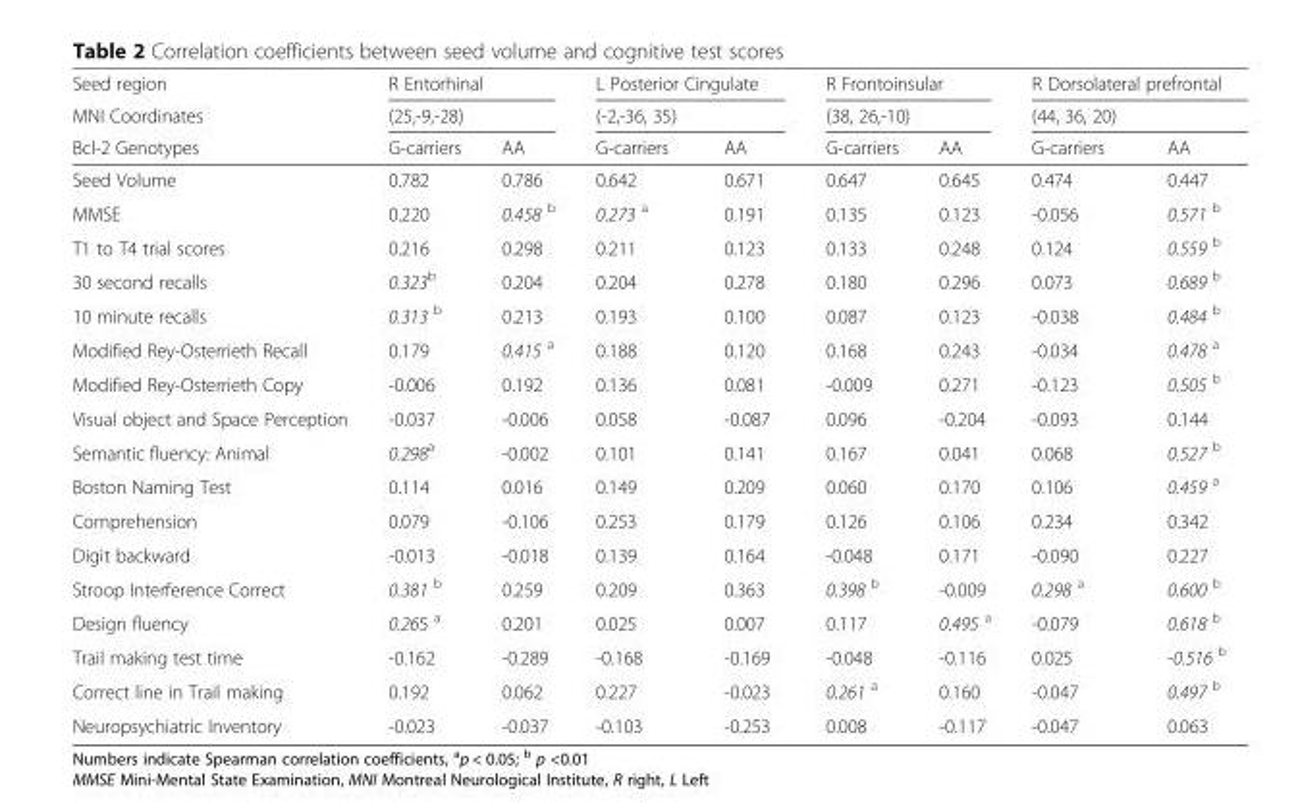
<table><thead><tr><td rowspan="3">Seed region MNI Coordinates Bcl-2 Genotypes</td><td rowspan="2" colspan="2">R Entorhinal (25,-9,-28)</td><td rowspan="2" colspan="2">L Posterior Cingulate (-2,-36, 35)</td><td rowspan="2" colspan="2">R Frontoinsular (38, 26,-10)</td><td rowspan="2" colspan="2">R Dorsolateral prefrontal (44, 36, 20)</td></tr><tr></tr><tr><td>G-carriers</td><td>AA</td><td>G-carriers</td><td>AA</td><td>G-carriers</td><td>AA</td><td>G-carriers</td><td>AA</td></tr></thead><tbody><tr><td>Seed Volume</td><td>0.782</td><td>0.786</td><td>0.642</td><td>0.671</td><td>0.647</td><td>0.645</td><td>0.474</td><td>0.447</td></tr><tr><td>MMSE</td><td>0.220</td><td>0.458 <sup>b</sup></td><td>0.273 <sup>a</sup></td><td>0.191</td><td>0.135</td><td>0.123</td><td>-0.056</td><td>0.571 <sup>b</sup></td></tr><tr><td>T1 to T4 trial scores</td><td>0.216</td><td>0.298</td><td>0.211</td><td>0.123</td><td>0.133</td><td>0.248</td><td>0.124</td><td>0.559 <sup>b</sup></td></tr><tr><td>30 second recalls</td><td>0.323<sup>b</sup></td><td>0.204</td><td>0.204</td><td>0.278</td><td>0.180</td><td>0.296</td><td>0.073</td><td>0.689 <sup>b</sup></td></tr><tr><td>10 minute recalls</td><td>0.313 <sup>b</sup></td><td>0.213</td><td>0.193</td><td>0.100</td><td>0.087</td><td>0.123</td><td>-0.038</td><td>0.484 <sup>b</sup></td></tr><tr><td>Modified Rey-Osterrieth Recall</td><td>0.179</td><td>0.415 <sup>a</sup></td><td>0.188</td><td>0.120</td><td>0.168</td><td>0.243</td><td>-0.034</td><td>0.478 <sup>a</sup></td></tr><tr><td>Modified Rey-Osterrieth Copy</td><td>-0.006</td><td>0.192</td><td>0.136</td><td>0.081</td><td>-0.009</td><td>0.271</td><td>-0.123</td><td>0.505 <sup>b</sup></td></tr><tr><td>Visual object and Space Perception</td><td>-0.037</td><td>-0.006</td><td>0.058</td><td>-0.087</td><td>0.096</td><td>-0.204</td><td>-0.093</td><td>0.144</td></tr><tr><td>Semantic fluency: Animal</td><td>0.298<sup>a</sup></td><td>-0.002</td><td>0.101</td><td>0.141</td><td>0.167</td><td>0.041</td><td>0.068</td><td>0.527 <sup>b</sup></td></tr><tr><td>Boston Naming Test</td><td>0.114</td><td>0.016</td><td>0.149</td><td>0.209</td><td>0.060</td><td>0.170</td><td>0.106</td><td>0.459 <sup>a</sup></td></tr><tr><td>Comprehension</td><td>0.079</td><td>-0.106</td><td>0.253</td><td>0.179</td><td>0.126</td><td>0.106</td><td>0.234</td><td>0.342</td></tr><tr><td>Digit backward</td><td>-0.013</td><td>-0.018</td><td>0.139</td><td>0.164</td><td>-0.048</td><td>0.171</td><td>-0.090</td><td>0.227</td></tr><tr><td>Stroop Interference Correct</td><td>0.381 <sup>b</sup></td><td>0.259</td><td>0.209</td><td>0.363</td><td>0.398 <sup>b</sup></td><td>-0.009</td><td>0.298 <sup>a</sup></td><td>0.600 <sup>b</sup></td></tr><tr><td>Design fluency</td><td>0.265 <sup>a</sup></td><td>0.201</td><td>0.025</td><td>0.007</td><td>0.117</td><td>0.495 <sup>a</sup></td><td>-0.079</td><td>0.618 <sup>b</sup></td></tr><tr><td>Trail making test time</td><td>-0.162</td><td>-0.289</td><td>-0.168</td><td>-0.169</td><td>-0.048</td><td>-0.116</td><td>0.025</td><td>-0.516 <sup>b</sup></td></tr><tr><td>Correct line in Trail making</td><td>0.192</td><td>0.062</td><td>0.227</td><td>-0.023</td><td>0.261 <sup>a</sup></td><td>0.160</td><td>-0.047</td><td>0.497 <sup>b</sup></td></tr><tr><td>Neuropsychiatric Inventory</td><td>-0.023</td><td>-0.037</td><td>-0.103</td><td>-0.253</td><td>0.008</td><td>-0.117</td><td>-0.047</td><td>0.063</td></tr></tbody></table>